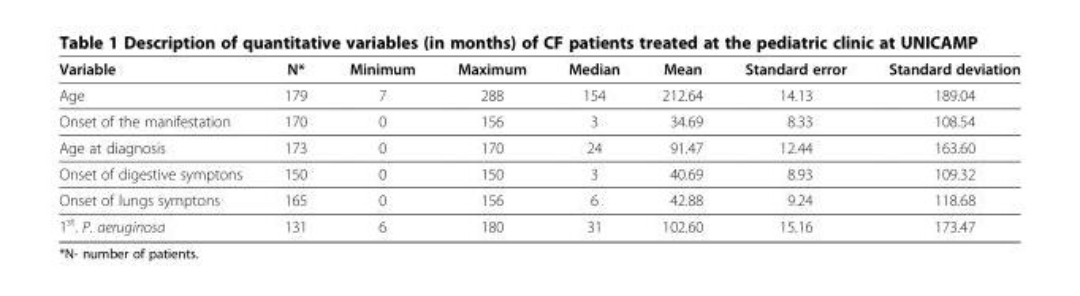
<table><thead><tr><td>Variable</td><td>N*</td><td>Minimum</td><td>Maximum</td><td>Median</td><td>Mean</td><td>Standard error</td><td>Standard deviation</td></tr></thead><tbody><tr><td>Age</td><td>179</td><td>7</td><td>288</td><td>154</td><td>212.64</td><td>14.13</td><td>189.04</td></tr><tr><td>Onset of the manifestation</td><td>170</td><td>0</td><td>156</td><td>3</td><td>34.69</td><td>8.33</td><td>108.54</td></tr><tr><td>Age at diagnosis</td><td>173</td><td>0</td><td>170</td><td>24</td><td>91.47</td><td>12.44</td><td>163.60</td></tr><tr><td>Onset of digestive symptons</td><td>150</td><td>0</td><td>150</td><td>3</td><td>40.69</td><td>8.93</td><td>109.32</td></tr><tr><td>Onset of lungs symptons</td><td>165</td><td>0</td><td>156</td><td>6</td><td>42.88</td><td>9.24</td><td>118.68</td></tr><tr><td>1<sup>st</sup>. P. aeruginosa</td><td>131</td><td>6</td><td>180</td><td>31</td><td>102.60</td><td>15.16</td><td>173.47</td></tr></tbody></table>